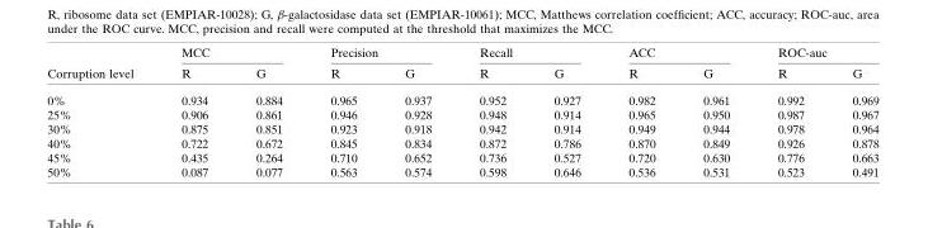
<table><thead><tr><td rowspan="2">Corruption level</td><td colspan="2">MCC</td><td colspan="2">Precision</td><td colspan="2">Recall</td><td colspan="2">ACC</td><td colspan="2">ROC-auc</td></tr><tr><td>R</td><td>G</td><td>R</td><td>G</td><td>R</td><td>G</td><td>R</td><td>G</td><td>R</td><td>G</td></tr></thead><tbody><tr><td>0%</td><td>0.934</td><td>0.884</td><td>0.965</td><td>0.937</td><td>0.952</td><td>0.927</td><td>0.982</td><td>0.961</td><td>0.992</td><td>0.969</td></tr><tr><td>25%</td><td>0.906</td><td>0.861</td><td>0.946</td><td>0.928</td><td>0.948</td><td>0.914</td><td>0.965</td><td>0.950</td><td>0.987</td><td>0.967</td></tr><tr><td>30%</td><td>0.875</td><td>0.851</td><td>0.923</td><td>0.918</td><td>0.942</td><td>0.914</td><td>0.949</td><td>0.944</td><td>0.978</td><td>0.964</td></tr><tr><td>40%</td><td>0.722</td><td>0.672</td><td>0.845</td><td>0.834</td><td>0.872</td><td>0.786</td><td>0.870</td><td>0.849</td><td>0.926</td><td>0.878</td></tr><tr><td>45%</td><td>0.435</td><td>0.264</td><td>0.710</td><td>0.652</td><td>0.736</td><td>0.527</td><td>0.720</td><td>0.630</td><td>0.776</td><td>0.663</td></tr><tr><td>50%</td><td>0.087</td><td>0.077</td><td>0.563</td><td>0.574</td><td>0.598</td><td>0.646</td><td>0.536</td><td>0.531</td><td>0.523</td><td>0.491</td></tr></tbody></table>